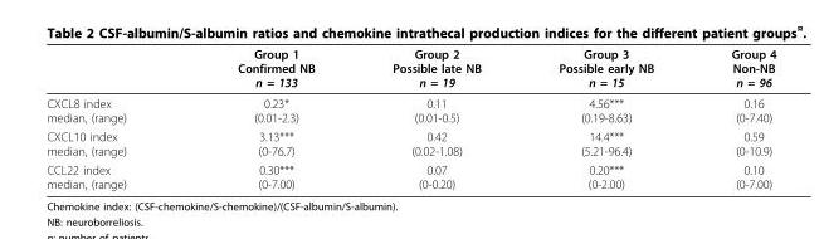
<table><thead><tr><td></td><td>Group 1 Confirmed NB n = 133</td><td>Group 2 Possible late NB n = 19</td><td>Group 3 Possible early NB n = 15</td><td>Group 4 Non-NB n = 96</td></tr></thead><tbody><tr><td>CXCL8 index median, (range)</td><td>0.23* (0.01-2.3)</td><td>0.11 (0.01-0.5)</td><td>4.56*** (0.19-8.63)</td><td>0.16 (0-7.40)</td></tr><tr><td>CXCL10 index median, (range)</td><td>3.13*** (0-76.7)</td><td>0.42 (0.02-1.08)</td><td>14.4*** (5.21-96.4)</td><td>0.59 (0-10.9)</td></tr><tr><td>CCL22 index median, (range)</td><td>0.30*** (0-7.00)</td><td>0.07 (0-0.20)</td><td>0.20*** (0-2.00)</td><td>0.10 (0-7.00)</td></tr></tbody></table>